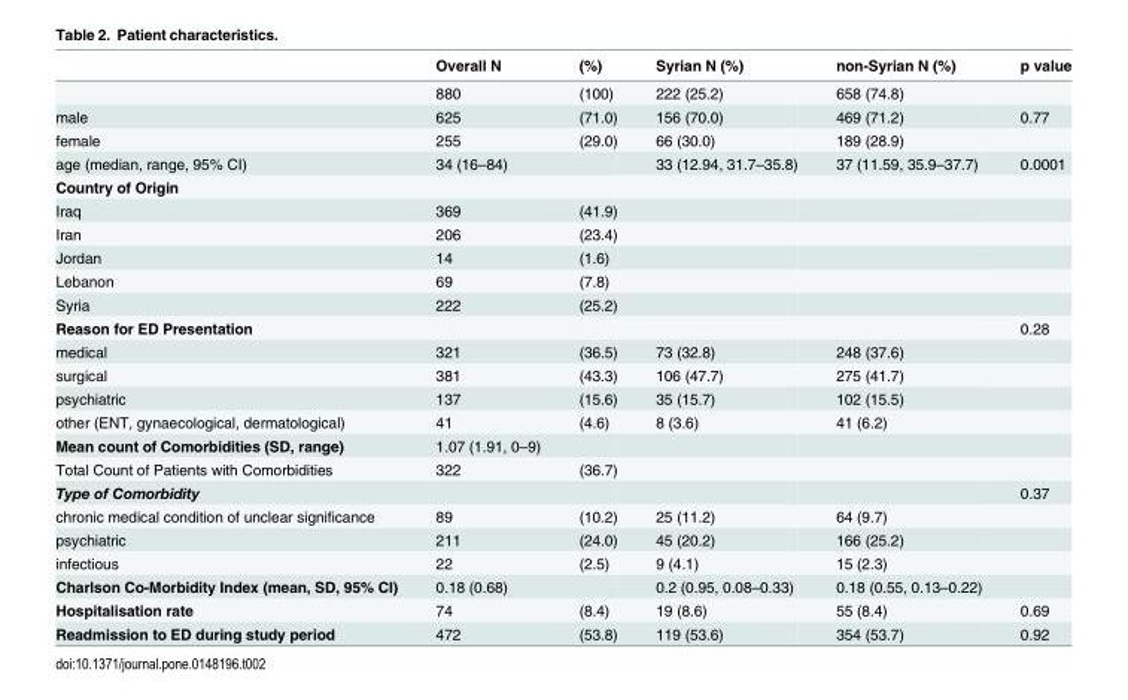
<table><thead><tr><td></td><td>Overall N</td><td>(%)</td><td>Syrian N (%)</td><td>non-Syrian N (%)</td><td>p value</td></tr></thead><tbody><tr><td></td><td>880</td><td>(100)</td><td>222 (25.2)</td><td>658 (74.8)</td><td></td></tr><tr><td>male</td><td>625</td><td>(71.0)</td><td>156 (70.0)</td><td>469 (71.2)</td><td>0.77</td></tr><tr><td>female</td><td>255</td><td>(29.0)</td><td>66 (30.0)</td><td>189 (28.9)</td><td></td></tr><tr><td>age (median, range, 95% CI)</td><td>34 (16–84)</td><td></td><td>33 (12.94, 31.7–35.8)</td><td>37 (11.59, 35.9–37.7)</td><td>0.0001</td></tr><tr><td colspan="6">Country of Origin</td></tr><tr><td>Iraq</td><td>369</td><td>(41.9)</td><td></td><td></td><td></td></tr><tr><td>Iran</td><td>206</td><td>(23.4)</td><td></td><td></td><td></td></tr><tr><td>Jordan</td><td>14</td><td>(1.6)</td><td></td><td></td><td></td></tr><tr><td>Lebanon</td><td>69</td><td>(7.8)</td><td></td><td></td><td></td></tr><tr><td>Syria</td><td>222</td><td>(25.2)</td><td></td><td></td><td></td></tr><tr><td>Reason for ED Presentation</td><td></td><td></td><td></td><td></td><td>0.28</td></tr><tr><td>medical</td><td>321</td><td>(36.5)</td><td>73 (32.8)</td><td>248 (37.6)</td><td></td></tr><tr><td>surgical</td><td>381</td><td>(43.3)</td><td>106 (47.7)</td><td>275 (41.7)</td><td></td></tr><tr><td>psychiatric</td><td>137</td><td>(15.6)</td><td>35 (15.7)</td><td>102 (15.5)</td><td></td></tr><tr><td>other (ENT, gynaecological, dermatological)</td><td>41</td><td>(4.6)</td><td>8 (3.6)</td><td>41 (6.2)</td><td></td></tr><tr><td>Mean count of Comorbidities (SD, range)</td><td>1.07 (1.91, 0–9)</td><td></td><td></td><td></td><td></td></tr><tr><td>Total Count of Patients with Comorbidities</td><td>322</td><td>(36.7)</td><td></td><td></td><td></td></tr><tr><td>Type of Comorbidity</td><td></td><td></td><td></td><td></td><td>0.37</td></tr><tr><td>chronic medical condition of unclear significance</td><td>89</td><td>(10.2)</td><td>25 (11.2)</td><td>64 (9.7)</td><td></td></tr><tr><td>psychiatric</td><td>211</td><td>(24.0)</td><td>45 (20.2)</td><td>166 (25.2)</td><td></td></tr><tr><td>infectious</td><td>22</td><td>(2.5)</td><td>9 (4.1)</td><td>15 (2.3)</td><td></td></tr><tr><td>Charlson Co-Morbidity Index (mean, SD, 95% CI)</td><td>0.18 (0.68)</td><td></td><td>0.2 (0.95, 0.08–0.33)</td><td>0.18 (0.55, 0.13–0.22)</td><td></td></tr><tr><td>Hospitalisation rate</td><td>74</td><td>(8.4)</td><td>19 (8.6)</td><td>55 (8.4)</td><td>0.69</td></tr><tr><td>Readmission to ED during study period</td><td>472</td><td>(53.8)</td><td>119 (53.6)</td><td>354 (53.7)</td><td>0.92</td></tr></tbody></table>